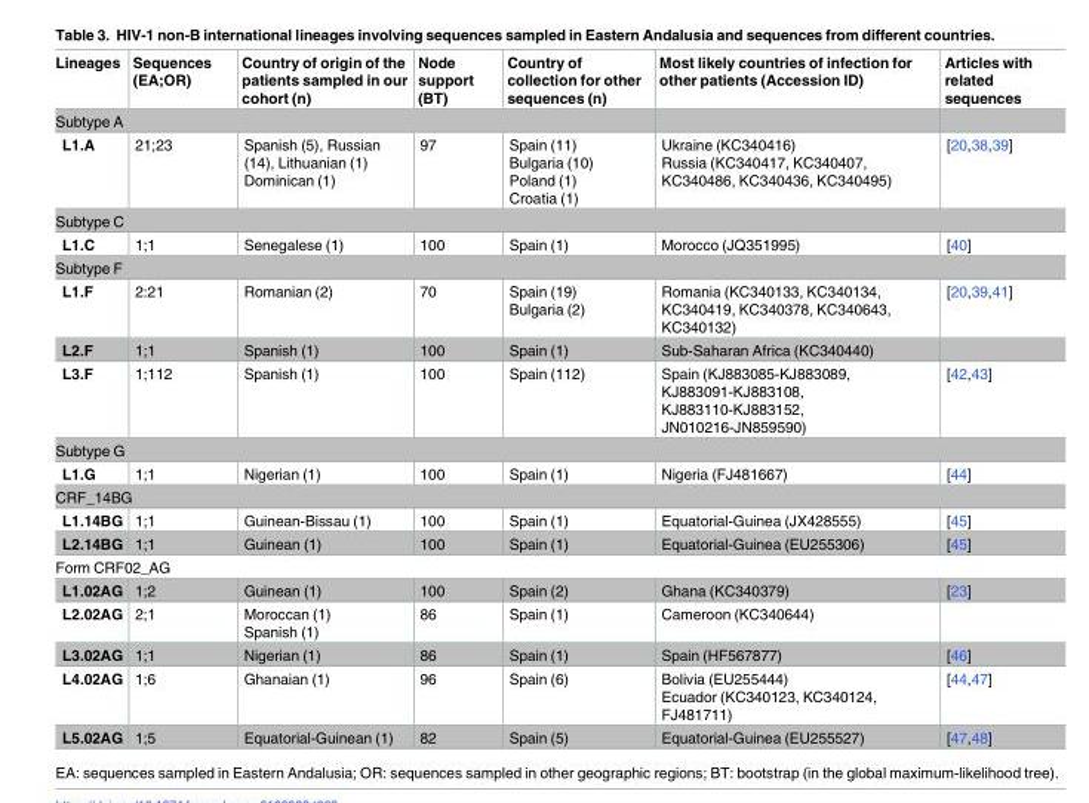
<table><thead><tr><td>Lineages</td><td>Sequences (EA;OR)</td><td>Country of origin of the patients sampled in our cohort (n)</td><td>Node support (BT)</td><td>Country of collection for other sequences (n)</td><td>Most likely countries of infection for other patients (Accession ID)</td><td>Articles with related sequences</td></tr></thead><tbody><tr><td colspan="7">Subtype A</td></tr><tr><td>L1.A</td><td>21;23</td><td>Spanish (5), Russian (14), Lithuanian (1) Dominican (1)</td><td>97</td><td>Spain (11) Bulgaria (10) Poland (1) Croatia (1)</td><td>Ukraine (KC340416) Russia (KC340417, KC340407, KC340486, KC340436, KC340495)</td><td>[20,38,39]</td></tr><tr><td colspan="7">Subtype C</td></tr><tr><td>L1.C</td><td>1;1</td><td>Senegalese (1)</td><td>100</td><td>Spain (1)</td><td>Morocco (JQ351995)</td><td>[40]</td></tr><tr><td colspan="7">Subtype F</td></tr><tr><td>L1.F</td><td>2:21</td><td>Romanian (2)</td><td>70</td><td>Spain (19) Bulgaria (2)</td><td>Romania (KC340133, KC340134, KC340419, KC340378, KC340643, KC340132)</td><td>[20,39,41]</td></tr><tr><td>L2.F</td><td>1;1</td><td>Spanish (1)</td><td>100</td><td>Spain (1)</td><td>Sub-Saharan Africa (KC340440)</td><td></td></tr><tr><td>L3.F</td><td>1;112</td><td>Spanish (1)</td><td>100</td><td>Spain (112)</td><td>Spain (KJ883085-KJ883089, KJ883091-KJ883108, KJ883110-KJ883152, JN010216-JN859590)</td><td>[42,43]</td></tr><tr><td colspan="7">Subtype G</td></tr><tr><td>L1.G</td><td>1;1</td><td>Nigerian (1)</td><td>100</td><td>Spain (1)</td><td>Nigeria (FJ481667)</td><td>[44]</td></tr><tr><td colspan="7">CRF_14BG</td></tr><tr><td>L1.14BG</td><td>1;1</td><td>Guinean-Bissau (1)</td><td>100</td><td>Spain (1)</td><td>Equatorial-Guinea (JX428555)</td><td>[45]</td></tr><tr><td>L2.14BG</td><td>1;1</td><td>Guinean (1)</td><td>100</td><td>Spain (1)</td><td>Equatorial-Guinea (EU255306)</td><td>[45]</td></tr><tr><td colspan="7">Form CRF02_AG</td></tr><tr><td>L1.02AG</td><td>1;2</td><td>Guinean (1)</td><td>100</td><td>Spain (2)</td><td>Ghana (KC340379)</td><td>[23]</td></tr><tr><td>L2.02AG</td><td>2;1</td><td>Moroccan (1) Spanish (1)</td><td>86</td><td>Spain (1)</td><td>Cameroon (KC340644)</td><td></td></tr><tr><td>L3.02AG</td><td>1;1</td><td>Nigerian (1)</td><td>86</td><td>Spain (1)</td><td>Spain (HF567877)</td><td>[46]</td></tr><tr><td>L4.02AG</td><td>1;6</td><td>Ghanaian (1)</td><td>96</td><td>Spain (6)</td><td>Bolivia (EU255444) Ecuador (KC340123, KC340124, FJ481711)</td><td>[44,47]</td></tr><tr><td>L5.02AG</td><td>1;5</td><td>Equatorial-Guinean (1)</td><td>82</td><td>Spain (5)</td><td>Equatorial-Guinea (EU255527)</td><td>[47,48]</td></tr></tbody></table>